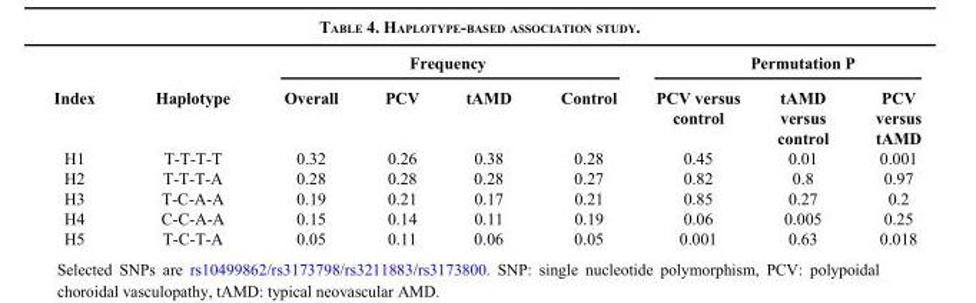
<table><thead><tr><td rowspan="2">Index</td><td rowspan="2">Haplotype</td><td colspan="4">Frequency</td><td colspan="3">Permutation P</td></tr><tr><td>Overall</td><td>PCV</td><td>tAMD</td><td>Control</td><td>PCV versus control</td><td>tAMD versus control</td><td>PCV versus tAMD</td></tr></thead><tbody><tr><td>H1</td><td>T-T-T-T</td><td>0.32</td><td>0.26</td><td>0.38</td><td>0.28</td><td>0.45</td><td>0.01</td><td>0.001</td></tr><tr><td>H2</td><td>T-T-T-A</td><td>0.28</td><td>0.28</td><td>0.28</td><td>0.27</td><td>0.82</td><td>0.8</td><td>0.97</td></tr><tr><td>H3</td><td>T-C-A-A</td><td>0.19</td><td>0.21</td><td>0.17</td><td>0.21</td><td>0.85</td><td>0.27</td><td>0.2</td></tr><tr><td>H4</td><td>C-C-A-A</td><td>0.15</td><td>0.14</td><td>0.11</td><td>0.19</td><td>0.06</td><td>0.005</td><td>0.25</td></tr><tr><td>H5</td><td>T-C-T-A</td><td>0.05</td><td>0.11</td><td>0.06</td><td>0.05</td><td>0.001</td><td>0.63</td><td>0.018</td></tr></tbody></table>